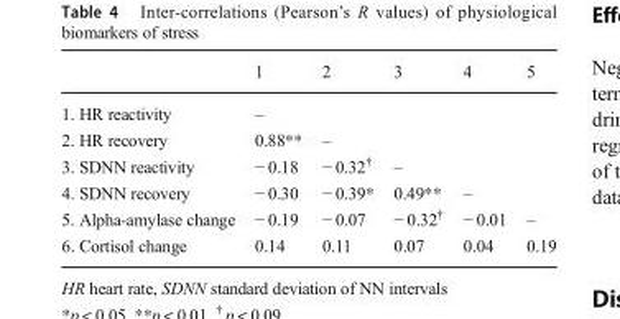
<table><thead><tr><td></td><td>1</td><td>2</td><td>3</td><td>4</td><td>5</td></tr></thead><tbody><tr><td>1. HR reactivity</td><td>–</td><td></td><td></td><td></td><td></td></tr><tr><td>2. HR recovery</td><td>0.88**</td><td>–</td><td></td><td></td><td></td></tr><tr><td>3. SDNN reactivity</td><td>− 0.18</td><td>− 0.32<sup>†</sup></td><td>–</td><td></td><td></td></tr><tr><td>4. SDNN recovery</td><td>− 0.30</td><td>− 0.39*</td><td>0.49**</td><td>–</td><td></td></tr><tr><td>5. Alpha-amylase change</td><td>− 0.19</td><td>− 0.07</td><td>− 0.32<sup>†</sup></td><td>− 0.01</td><td>–</td></tr><tr><td>6. Cortisol change</td><td>0.14</td><td>0.11</td><td>0.07</td><td>0.04</td><td>0.19</td></tr></tbody></table>